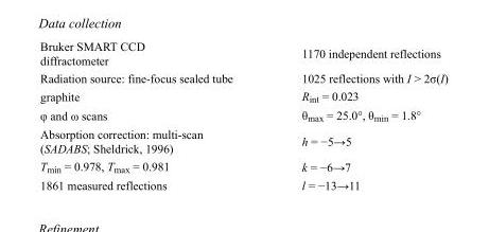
<table><tbody><tr><td>Bruker SMART CCD diffractometer</td><td>1170 independent reflections</td></tr><tr><td>Radiation source: fine-focus sealed tube</td><td>1025 reflections with I &gt; 2σ(I)</td></tr><tr><td>graphite</td><td>R<sub>int</sub> = 0.023</td></tr><tr><td>φ and ω scans</td><td>θ<sub>max</sub> = 25.0°, θ<sub>min</sub> = 1.8°</td></tr><tr><td>Absorption correction: multi-scan (SADABS; Sheldrick, 1996)</td><td>h = −5→5</td></tr><tr><td>T<sub>min</sub> = 0.978, T<sub>max</sub> = 0.981</td><td>k = −6→7</td></tr><tr><td>1861 measured reflections</td><td>l = −13→11</td></tr></tbody></table>